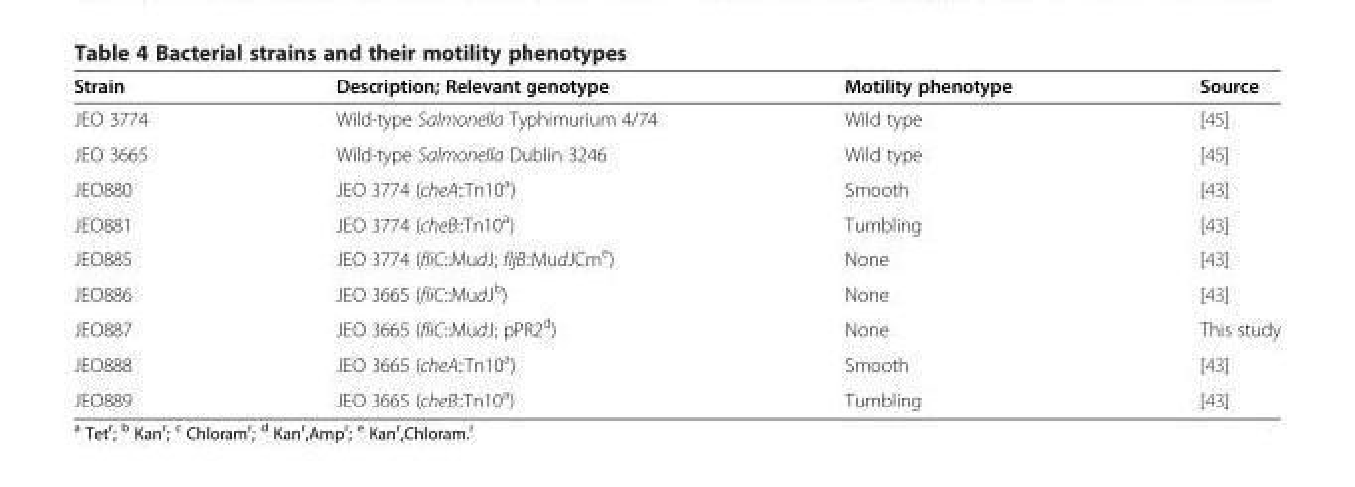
<table><thead><tr><td>Strain</td><td>Description; Relevant genotype</td><td>Motility phenotype</td><td>Source</td></tr></thead><tbody><tr><td>JEO 3774</td><td>Wild-type Salmonella Typhimurium 4/74</td><td>Wild type</td><td>[45]</td></tr><tr><td>JEO 3665</td><td>Wild-type Salmonella Dublin 3246</td><td>Wild type</td><td>[45]</td></tr><tr><td>JEO880</td><td>JEO 3774 (cheA::Tn10<sup>a</sup>)</td><td>Smooth</td><td>[43]</td></tr><tr><td>JEO881</td><td>JEO 3774 (cheB::Tn10<sup>a</sup>)</td><td>Tumbling</td><td>[43]</td></tr><tr><td>JEO885</td><td>JEO 3774 (fliC::MudJ; fljB::MudJCm<sup>e</sup>)</td><td>None</td><td>[43]</td></tr><tr><td>JEO886</td><td>JEO 3665 (fliC::MudJ<sup>b</sup>)</td><td>None</td><td>[43]</td></tr><tr><td>JEO887</td><td>JEO 3665 (fliC::MudJ; pPR2<sup>d</sup>)</td><td>None</td><td>This study</td></tr><tr><td>JEO888</td><td>JEO 3665 (cheA::Tn10<sup>a</sup>)</td><td>Smooth</td><td>[43]</td></tr><tr><td>JEO889</td><td>JEO 3665 (cheB::Tn10<sup>a</sup>)</td><td>Tumbling</td><td>[43]</td></tr></tbody></table>